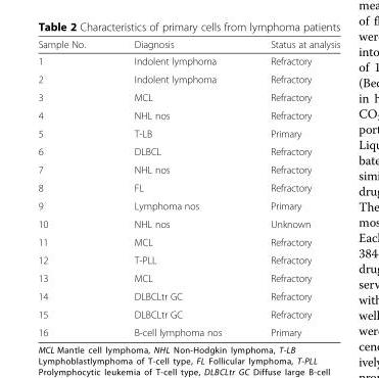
<table><thead><tr><td>Sample No.</td><td>Diagnosis</td><td>Status at analysis</td></tr></thead><tbody><tr><td>1</td><td>Indolent lymphoma</td><td>Refractory</td></tr><tr><td>2</td><td>Indolent lymphoma</td><td>Refractory</td></tr><tr><td>3</td><td>MCL</td><td>Refractory</td></tr><tr><td>4</td><td>NHL nos</td><td>Refractory</td></tr><tr><td>5</td><td>T-LB</td><td>Primary</td></tr><tr><td>6</td><td>DLBCL</td><td>Refractory</td></tr><tr><td>7</td><td>NHL nos</td><td>Refractory</td></tr><tr><td>8</td><td>FL</td><td>Refractory</td></tr><tr><td>9</td><td>Lymphoma nos</td><td>Primary</td></tr><tr><td>10</td><td>NHL nos</td><td>Unknown</td></tr><tr><td>11</td><td>MCL</td><td>Refractory</td></tr><tr><td>12</td><td>T-PLL</td><td>Refractory</td></tr><tr><td>13</td><td>MCL</td><td>Refractory</td></tr><tr><td>14</td><td>DLBCLtr GC</td><td>Refractory</td></tr><tr><td>15</td><td>DLBCLtr GC</td><td>Refractory</td></tr><tr><td>16</td><td>B-cell lymphoma nos</td><td>Primary</td></tr></tbody></table>